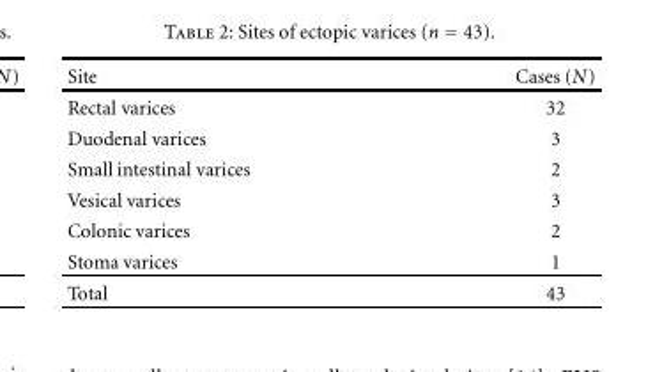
<table><thead><tr><td>Site</td><td>Cases (N)</td></tr></thead><tbody><tr><td>Rectal varices</td><td>32</td></tr><tr><td>Duodenal varices</td><td>3</td></tr><tr><td>Small intestinal varices</td><td>2</td></tr><tr><td>Vesical varices</td><td>3</td></tr><tr><td>Colonic varices</td><td>2</td></tr><tr><td>Stoma varices</td><td>1</td></tr><tr><td>Total</td><td>43</td></tr></tbody></table>